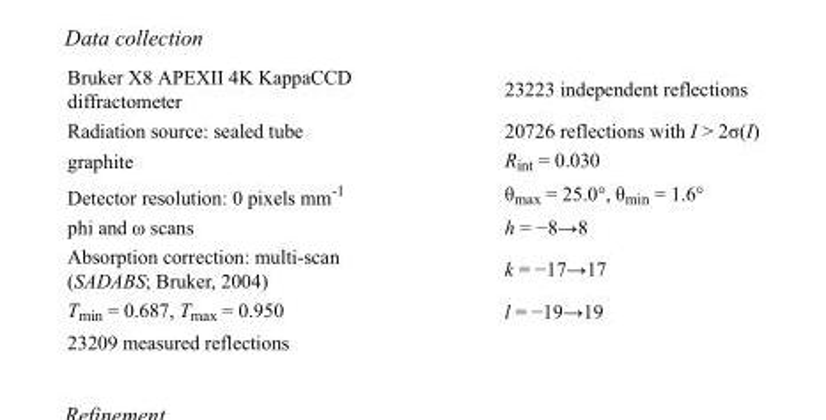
<table><tbody><tr><td>Bruker X8 APEXII 4K KappaCCD diffractometer</td><td>23223 independent reflections</td></tr><tr><td>Radiation source: sealed tube</td><td>20726 reflections with I &gt; 2σ(I)</td></tr><tr><td>graphite</td><td>R<sub>int</sub> = 0.030</td></tr><tr><td>Detector resolution: 0 pixels mm<sup>-1</sup></td><td>θ<sub>max</sub> = 25.0°, θ<sub>min</sub> = 1.6°</td></tr><tr><td>phi and ω scans</td><td>h = −8→8</td></tr><tr><td>Absorption correction: multi-scan (SADABS; Bruker, 2004)</td><td>k = −17→17</td></tr><tr><td>T<sub>min</sub> = 0.687, T<sub>max</sub> = 0.950</td><td>l = −19→19</td></tr><tr><td>23209 measured reflections</td><td></td></tr></tbody></table>